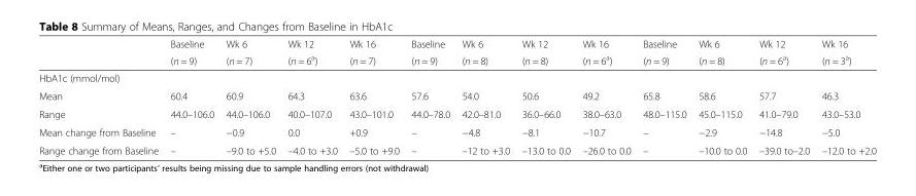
<table><thead><tr><td rowspan="2"></td><td rowspan="2">Baseline (n = 9)</td><td rowspan="2">Wk 6 (n = 7)</td><td rowspan="2">Wk 12 (n = 6<sup>a</sup>)</td><td rowspan="2">Wk 16 (n = 7)</td><td rowspan="2">Baseline (n = 9)</td><td rowspan="2">Wk 6 (n = 8)</td><td rowspan="2">Wk 12 (n = 8)</td><td rowspan="2">Wk 16 (n = 6<sup>a</sup>)</td><td rowspan="2">Baseline (n = 9)</td><td rowspan="2">Wk 6 (n = 8)</td><td rowspan="2">Wk 12 (n = 6<sup>a</sup>)</td><td rowspan="2">Wk 16 (n = 3<sup>a</sup>)</td></tr><tr></tr></thead><tbody><tr><td colspan="13">HbA1c (mmol/mol)</td></tr><tr><td>Mean</td><td>60.4</td><td>60.9</td><td>64.3</td><td>63.6</td><td>57.6</td><td>54.0</td><td>50.6</td><td>49.2</td><td>65.8</td><td>58.6</td><td>57.7</td><td>46.3</td></tr><tr><td>Range</td><td>44.0–106.0</td><td>44.0–106.0</td><td>40.0–107.0</td><td>43.0–101.0</td><td>44.0–78.0</td><td>42.0–81.0</td><td>36.0–66.0</td><td>38.0–63.0</td><td>48.0–115.0</td><td>45.0–115.0</td><td>41.0–79.0</td><td>43.0–53.0</td></tr><tr><td>Mean change from Baseline</td><td>–</td><td>−0.9</td><td>0.0</td><td>+0.9</td><td>–</td><td>−4.8</td><td>−8.1</td><td>−10.7</td><td>–</td><td>−2.9</td><td>−14.8</td><td>−5.0</td></tr><tr><td>Range change from Baseline</td><td>–</td><td>–9.0 to +5.0</td><td>–4.0 to +3.0</td><td>–5.0 to +9.0</td><td>–</td><td>–12 to +3.0</td><td>–13.0 to 0.0</td><td>–26.0 to 0.0</td><td>–</td><td>–10.0 to 0.0</td><td>–39.0 to–2.0</td><td>–12.0 to +2.0</td></tr></tbody></table>